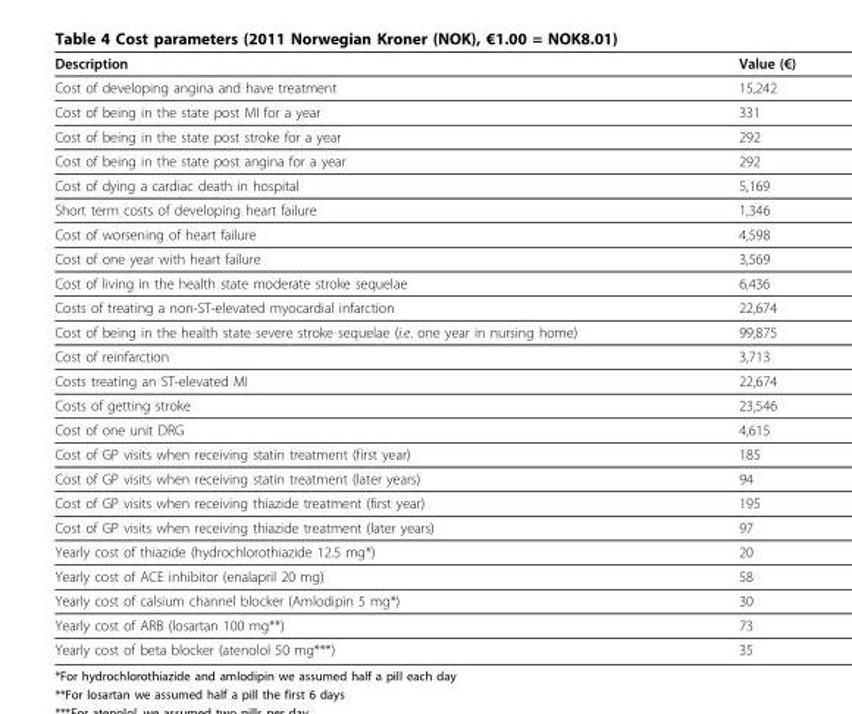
<table><thead><tr><td>Description</td><td>Value (€)</td></tr></thead><tbody><tr><td>Cost of developing angina and have treatment</td><td>15,242</td></tr><tr><td>Cost of being in the state post MI for a year</td><td>331</td></tr><tr><td>Cost of being in the state post stroke for a year</td><td>292</td></tr><tr><td>Cost of being in the state post angina for a year</td><td>292</td></tr><tr><td>Cost of dying a cardiac death in hospital</td><td>5,169</td></tr><tr><td>Short term costs of developing heart failure</td><td>1,346</td></tr><tr><td>Cost of worsening of heart failure</td><td>4,598</td></tr><tr><td>Cost of one year with heart failure</td><td>3,569</td></tr><tr><td>Cost of living in the health state moderate stroke sequelae</td><td>6,436</td></tr><tr><td>Costs of treating a non-ST-elevated myocardial infarction</td><td>22,674</td></tr><tr><td>Cost of being in the health state severe stroke sequelae (i.e. one year in nursing home)</td><td>99,875</td></tr><tr><td>Cost of reinfarction</td><td>3,713</td></tr><tr><td>Costs treating an ST-elevated MI</td><td>22,674</td></tr><tr><td>Costs of getting stroke</td><td>23,546</td></tr><tr><td>Cost of one unit DRG</td><td>4,615</td></tr><tr><td>Cost of GP visits when receiving statin treatment (first year)</td><td>185</td></tr><tr><td>Cost of GP visits when receiving statin treatment (later years)</td><td>94</td></tr><tr><td>Cost of GP visits when receiving thiazide treatment (first year)</td><td>195</td></tr><tr><td>Cost of GP visits when receiving thiazide treatment (later years)</td><td>97</td></tr><tr><td>Yearly cost of thiazide (hydrochlorothiazide 12.5 mg*)</td><td>20</td></tr><tr><td>Yearly cost of ACE inhibitor (enalapril 20 mg)</td><td>58</td></tr><tr><td>Yearly cost of calsium channel blocker (Amlodipin 5 mg*)</td><td>30</td></tr><tr><td>Yearly cost of ARB (losartan 100 mg**)</td><td>73</td></tr><tr><td>Yearly cost of beta blocker (atenolol 50 mg***)</td><td>35</td></tr></tbody></table>